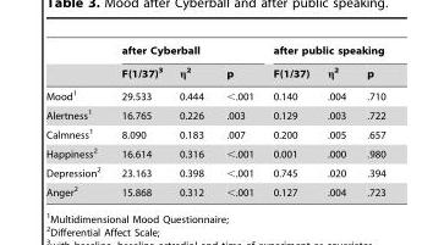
<table><thead><tr><td rowspan="2"></td><td colspan="3">after Cyberball</td><td colspan="3">after public speaking</td></tr><tr><td>F(1/37)<sup>3</sup></td><td>η<sup>2</sup></td><td>p</td><td>F(1/37)</td><td>η<sup>2</sup></td><td>p</td></tr></thead><tbody><tr><td>Mood<sup>1</sup></td><td>29.533</td><td>0.444</td><td>&lt;.001</td><td>0.140</td><td>.004</td><td>.710</td></tr><tr><td>Alertness<sup>1</sup></td><td>16.765</td><td>0.226</td><td>.003</td><td>0.129</td><td>.003</td><td>.722</td></tr><tr><td>Calmness<sup>1</sup></td><td>8.090</td><td>0.183</td><td>.007</td><td>0.200</td><td>.005</td><td>.657</td></tr><tr><td>Happiness<sup>2</sup></td><td>16.614</td><td>0.316</td><td>&lt;.001</td><td>0.001</td><td>.000</td><td>.980</td></tr><tr><td>Depression<sup>2</sup></td><td>23.163</td><td>0.398</td><td>&lt;.001</td><td>0.745</td><td>.020</td><td>.394</td></tr><tr><td>Anger<sup>2</sup></td><td>15.868</td><td>0.312</td><td>&lt;.001</td><td>0.127</td><td>.004</td><td>.723</td></tr></tbody></table>